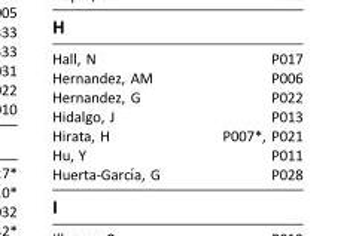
<table><tbody><tr><td>Hall, N</td><td>P017</td></tr><tr><td>Hernandez, AM</td><td>P006</td></tr><tr><td>Hernandez, G</td><td>P022</td></tr><tr><td>Hidalgo, J</td><td>P013</td></tr><tr><td>Hirata, H</td><td>P007*, P021</td></tr><tr><td>Hu, Y</td><td>P011</td></tr><tr><td>Huerta-Garcı´a, G</td><td>P028</td></tr></tbody></table>